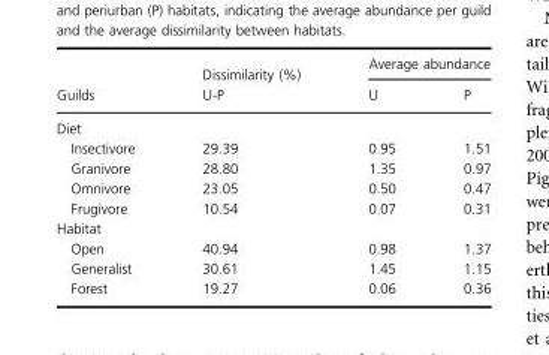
<table><thead><tr><td rowspan="2">Guilds</td><td rowspan="2">Dissimilarity (%) U-P</td><td colspan="2">Average abundance</td></tr><tr><td>U</td><td>P</td></tr></thead><tbody><tr><td colspan="4">Diet</td></tr><tr><td>Insectivore</td><td>29.39</td><td>0.95</td><td>1.51</td></tr><tr><td>Granivore</td><td>28.80</td><td>1.35</td><td>0.97</td></tr><tr><td>Omnivore</td><td>23.05</td><td>0.50</td><td>0.47</td></tr><tr><td>Frugivore</td><td>10.54</td><td>0.07</td><td>0.31</td></tr><tr><td colspan="4">Habitat</td></tr><tr><td>Open</td><td>40.94</td><td>0.98</td><td>1.37</td></tr><tr><td>Generalist</td><td>30.61</td><td>1.45</td><td>1.15</td></tr><tr><td>Forest</td><td>19.27</td><td>0.06</td><td>0.36</td></tr></tbody></table>